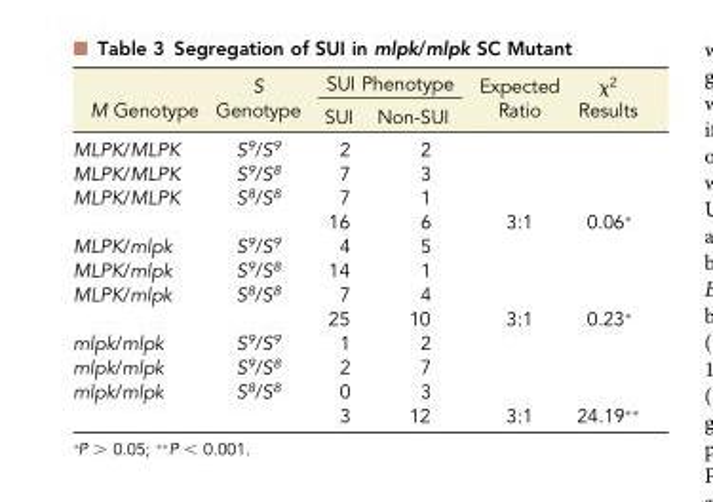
<table><thead><tr><td rowspan="2">M Genotype</td><td rowspan="2">S Genotype</td><td colspan="2">SUI Phenotype</td><td rowspan="2">Expected Ratio</td><td rowspan="2">χ<sup>2</sup> Results</td></tr><tr><td>SUI</td><td>Non-SUI</td></tr></thead><tbody><tr><td>MLPK/MLPK</td><td>S<sup>9</sup>/S<sup>9</sup></td><td>2</td><td>2</td><td></td><td></td></tr><tr><td>MLPK/MLPK</td><td>S<sup>9</sup>/S<sup>8</sup></td><td>7</td><td>3</td><td></td><td></td></tr><tr><td rowspan="2">MLPK/MLPK</td><td>S<sup>8</sup>/S<sup>8</sup></td><td>7</td><td>1</td><td></td><td></td></tr><tr><td></td><td>16</td><td>6</td><td>3:1</td><td>0.06*</td></tr><tr><td>MLPK/mlpk</td><td>S<sup>9</sup>/S<sup>9</sup></td><td>4</td><td>5</td><td></td><td></td></tr><tr><td>MLPK/mlpk</td><td>S<sup>9</sup>/S<sup>8</sup></td><td>14</td><td>1</td><td></td><td></td></tr><tr><td rowspan="2">MLPK/mlpk</td><td>S<sup>8</sup>/S<sup>8</sup></td><td>7</td><td>4</td><td></td><td></td></tr><tr><td></td><td>25</td><td>10</td><td>3:1</td><td>0.23*</td></tr><tr><td>mlpk/mlpk</td><td>S<sup>9</sup>/S<sup>9</sup></td><td>1</td><td>2</td><td></td><td></td></tr><tr><td>mlpk/mlpk</td><td>S<sup>9</sup>/S<sup>8</sup></td><td>2</td><td>7</td><td></td><td></td></tr><tr><td rowspan="2">mlpk/mlpk</td><td>S<sup>8</sup>/S<sup>8</sup></td><td>0</td><td>3</td><td></td><td></td></tr><tr><td></td><td>3</td><td>12</td><td>3:1</td><td>24.19**</td></tr></tbody></table>